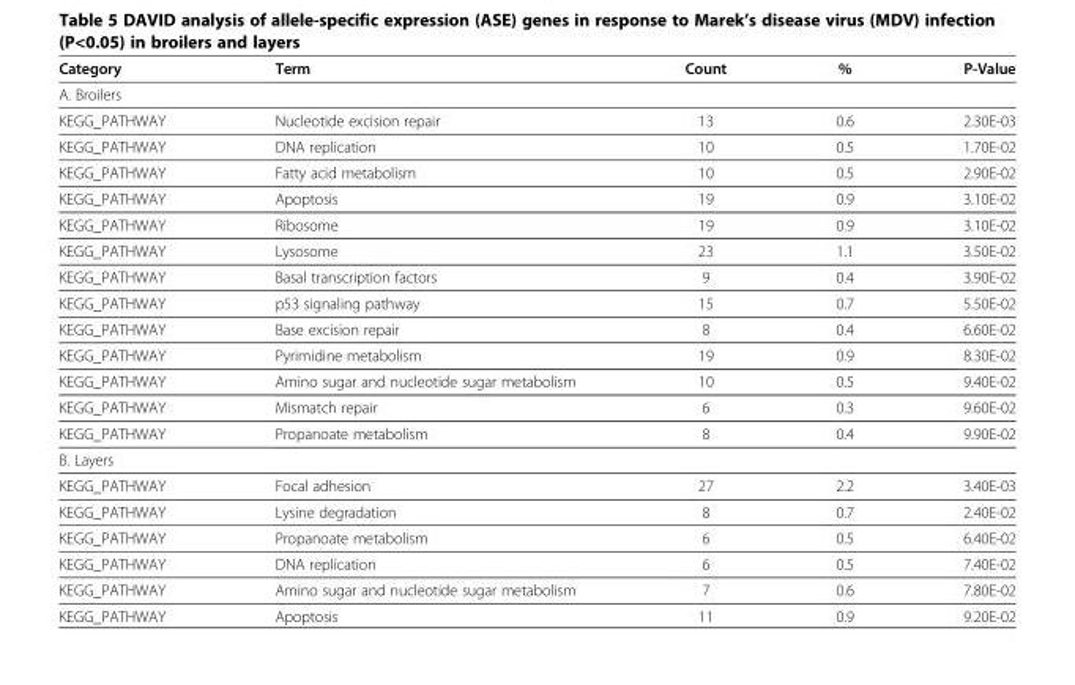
<table><thead><tr><td>Category</td><td>Term</td><td>Count</td><td>%</td><td>P-Value</td></tr></thead><tbody><tr><td colspan="5">A. Broilers</td></tr><tr><td>KEGG_PATHWAY</td><td>Nucleotide excision repair</td><td>13</td><td>0.6</td><td>2.30E-03</td></tr><tr><td>KEGG_PATHWAY</td><td>DNA replication</td><td>10</td><td>0.5</td><td>1.70E-02</td></tr><tr><td>KEGG_PATHWAY</td><td>Fatty acid metabolism</td><td>10</td><td>0.5</td><td>2.90E-02</td></tr><tr><td>KEGG_PATHWAY</td><td>Apoptosis</td><td>19</td><td>0.9</td><td>3.10E-02</td></tr><tr><td>KEGG_PATHWAY</td><td>Ribosome</td><td>19</td><td>0.9</td><td>3.10E-02</td></tr><tr><td>KEGG_PATHWAY</td><td>Lysosome</td><td>23</td><td>1.1</td><td>3.50E-02</td></tr><tr><td>KEGG_PATHWAY</td><td>Basal transcription factors</td><td>9</td><td>0.4</td><td>3.90E-02</td></tr><tr><td>KEGG_PATHWAY</td><td>p53 signaling pathway</td><td>15</td><td>0.7</td><td>5.50E-02</td></tr><tr><td>KEGG_PATHWAY</td><td>Base excision repair</td><td>8</td><td>0.4</td><td>6.60E-02</td></tr><tr><td>KEGG_PATHWAY</td><td>Pyrimidine metabolism</td><td>19</td><td>0.9</td><td>8.30E-02</td></tr><tr><td>KEGG_PATHWAY</td><td>Amino sugar and nucleotide sugar metabolism</td><td>10</td><td>0.5</td><td>9.40E-02</td></tr><tr><td>KEGG_PATHWAY</td><td>Mismatch repair</td><td>6</td><td>0.3</td><td>9.60E-02</td></tr><tr><td>KEGG_PATHWAY</td><td>Propanoate metabolism</td><td>8</td><td>0.4</td><td>9.90E-02</td></tr><tr><td colspan="5">B. Layers</td></tr><tr><td>KEGG_PATHWAY</td><td>Focal adhesion</td><td>27</td><td>2.2</td><td>3.40E-03</td></tr><tr><td>KEGG_PATHWAY</td><td>Lysine degradation</td><td>8</td><td>0.7</td><td>2.40E-02</td></tr><tr><td>KEGG_PATHWAY</td><td>Propanoate metabolism</td><td>6</td><td>0.5</td><td>6.40E-02</td></tr><tr><td>KEGG_PATHWAY</td><td>DNA replication</td><td>6</td><td>0.5</td><td>7.40E-02</td></tr><tr><td>KEGG_PATHWAY</td><td>Amino sugar and nucleotide sugar metabolism</td><td>7</td><td>0.6</td><td>7.80E-02</td></tr><tr><td>KEGG_PATHWAY</td><td>Apoptosis</td><td>11</td><td>0.9</td><td>9.20E-02</td></tr></tbody></table>